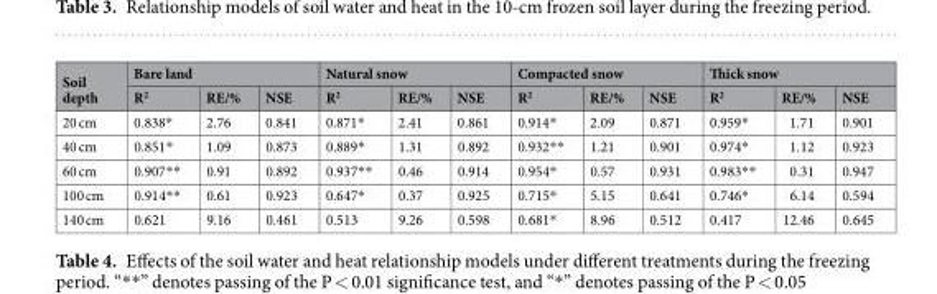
<table><thead><tr><td rowspan="2">Soil depth</td><td colspan="3">Bare land</td><td colspan="3">Natural snow</td><td colspan="3">Compacted snow</td><td colspan="3">Thick snow</td></tr><tr><td>R<sup>2</sup></td><td>RE/%</td><td>NSE</td><td>R<sup>2</sup></td><td>RE/%</td><td>NSE</td><td>R<sup>2</sup></td><td>RE/%</td><td>NSE</td><td>R<sup>2</sup></td><td>RE/%</td><td>NSE</td></tr></thead><tbody><tr><td>20 cm</td><td>0.838*</td><td>2.76</td><td>0.841</td><td>0.871*</td><td>2.41</td><td>0.861</td><td>0.914*</td><td>2.09</td><td>0.871</td><td>0.959*</td><td>1.71</td><td>0.901</td></tr><tr><td>40 cm</td><td>0.851*</td><td>1.09</td><td>0.873</td><td>0.889*</td><td>1.31</td><td>0.892</td><td>0.932**</td><td>1.21</td><td>0.901</td><td>0.974*</td><td>1.12</td><td>0.923</td></tr><tr><td>60 cm</td><td>0.907**</td><td>0.91</td><td>0.892</td><td>0.937**</td><td>0.46</td><td>0.914</td><td>0.954*</td><td>0.57</td><td>0.931</td><td>0.983**</td><td>0.31</td><td>0.947</td></tr><tr><td>100 cm</td><td>0.914**</td><td>0.61</td><td>0.923</td><td>0.647*</td><td>0.37</td><td>0.925</td><td>0.715*</td><td>5.15</td><td>0.641</td><td>0.746*</td><td>6.14</td><td>0.594</td></tr><tr><td>140 cm</td><td>0.621</td><td>9.16</td><td>0.461</td><td>0.513</td><td>9.26</td><td>0.598</td><td>0.681*</td><td>8.96</td><td>0.512</td><td>0.417</td><td>12.46</td><td>0.645</td></tr></tbody></table>